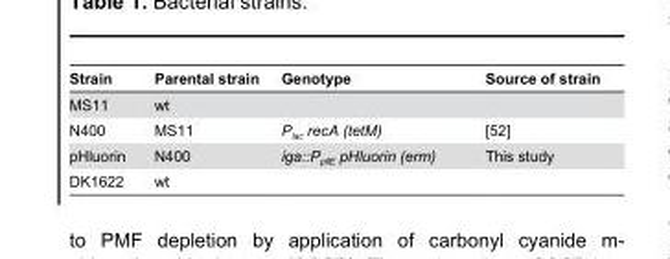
<table><thead><tr><td>Strain</td><td>Parental strain</td><td>Genotype</td><td>Source of strain</td></tr></thead><tbody><tr><td>MS11</td><td>wt</td><td></td><td></td></tr><tr><td>N400</td><td>MS11</td><td>P<sub>lac</sub> recA (tetM)</td><td>[52]</td></tr><tr><td>pHluorin</td><td>N400</td><td>iga::P<sub>pilE</sub> pHluorin (erm)</td><td>This study</td></tr><tr><td>DK1622</td><td>wt</td><td></td><td></td></tr></tbody></table>